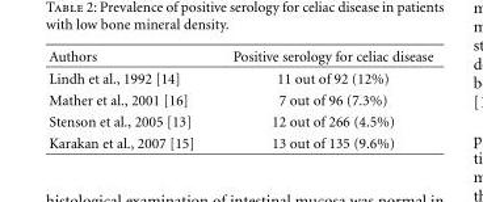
<table><thead><tr><td>Authors</td><td>Positive serology for celiac disease</td></tr></thead><tbody><tr><td>Lindh et al., 1992 [14]</td><td>11 out of 92 (12%)</td></tr><tr><td>Mather et al., 2001 [16]</td><td>7 out of 96 (7.3%)</td></tr><tr><td>Stenson et al., 2005 [13]</td><td>12 out of 266 (4.5%)</td></tr><tr><td>Karakan et al., 2007 [15]</td><td>13 out of 135 (9.6%)</td></tr></tbody></table>